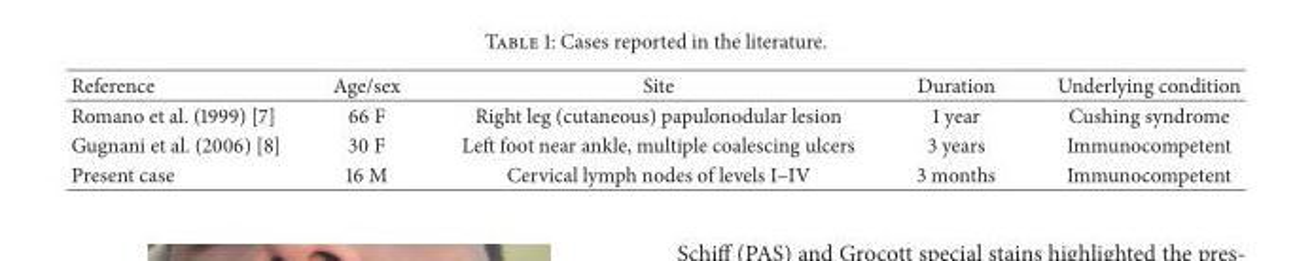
<table><thead><tr><td>Reference</td><td>Age/sex</td><td>Site</td><td>Duration</td><td>Underlying condition</td></tr></thead><tbody><tr><td>Romano et al. (1999) [7]</td><td>66 F</td><td>Right leg (cutaneous) papulonodular lesion</td><td>1 year</td><td>Cushing syndrome</td></tr><tr><td>Gugnani et al. (2006) [8]</td><td>30 F</td><td>Left foot near ankle, multiple coalescing ulcers</td><td>3 years</td><td>Immunocompetent</td></tr><tr><td>Present case</td><td>16 M</td><td>Cervical lymph nodes of levels I–IV</td><td>3 months</td><td>Immunocompetent</td></tr></tbody></table>